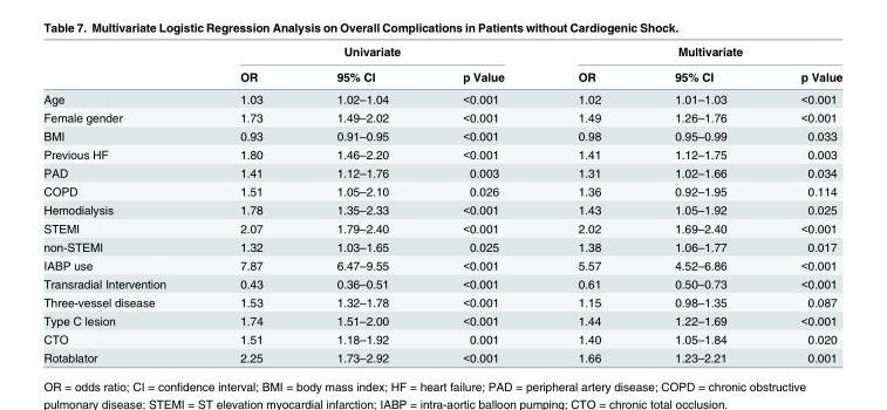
<table><thead><tr><td rowspan="2"></td><td colspan="3">Univariate</td><td colspan="3">Multivariate</td></tr><tr><td>OR</td><td>95% CI</td><td>p Value</td><td>OR</td><td>95% CI</td><td>p Value</td></tr></thead><tbody><tr><td>Age</td><td>1.03</td><td>1.02–1.04</td><td>&lt;0.001</td><td>1.02</td><td>1.01–1.03</td><td>&lt;0.001</td></tr><tr><td>Female gender</td><td>1.73</td><td>1.49–2.02</td><td>&lt;0.001</td><td>1.49</td><td>1.26–1.76</td><td>&lt;0.001</td></tr><tr><td>BMI</td><td>0.93</td><td>0.91–0.95</td><td>&lt;0.001</td><td>0.98</td><td>0.95–0.99</td><td>0.033</td></tr><tr><td>Previous HF</td><td>1.80</td><td>1.46–2.20</td><td>&lt;0.001</td><td>1.41</td><td>1.12–1.75</td><td>0.003</td></tr><tr><td>PAD</td><td>1.41</td><td>1.12–1.76</td><td>0.003</td><td>1.31</td><td>1.02–1.66</td><td>0.034</td></tr><tr><td>COPD</td><td>1.51</td><td>1.05–2.10</td><td>0.026</td><td>1.36</td><td>0.92–1.95</td><td>0.114</td></tr><tr><td>Hemodialysis</td><td>1.78</td><td>1.35–2.33</td><td>&lt;0.001</td><td>1.43</td><td>1.05–1.92</td><td>0.025</td></tr><tr><td>STEMI</td><td>2.07</td><td>1.79–2.40</td><td>&lt;0.001</td><td>2.02</td><td>1.69–2.40</td><td>&lt;0.001</td></tr><tr><td>non-STEMI</td><td>1.32</td><td>1.03–1.65</td><td>0.025</td><td>1.38</td><td>1.06–1.77</td><td>0.017</td></tr><tr><td>IABP use</td><td>7.87</td><td>6.47–9.55</td><td>&lt;0.001</td><td>5.57</td><td>4.52–6.86</td><td>&lt;0.001</td></tr><tr><td>Transradial Intervention</td><td>0.43</td><td>0.36–0.51</td><td>&lt;0.001</td><td>0.61</td><td>0.50–0.73</td><td>&lt;0.001</td></tr><tr><td>Three-vessel disease</td><td>1.53</td><td>1.32–1.78</td><td>&lt;0.001</td><td>1.15</td><td>0.98–1.35</td><td>0.087</td></tr><tr><td>Type C lesion</td><td>1.74</td><td>1.51–2.00</td><td>&lt;0.001</td><td>1.44</td><td>1.22–1.69</td><td>&lt;0.001</td></tr><tr><td>CTO</td><td>1.51</td><td>1.18–1.92</td><td>0.001</td><td>1.40</td><td>1.05–1.84</td><td>0.020</td></tr><tr><td>Rotablator</td><td>2.25</td><td>1.73–2.92</td><td>&lt;0.001</td><td>1.66</td><td>1.23–2.21</td><td>0.001</td></tr></tbody></table>